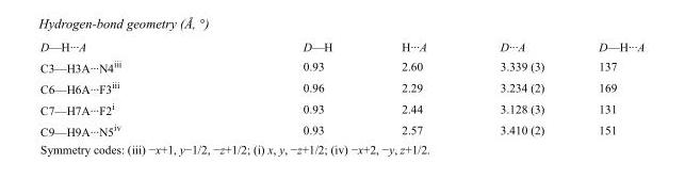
<table><tbody><tr><td>D—H···A</td><td>D—H</td><td>H···A</td><td>D···A</td><td>D—H···A</td></tr><tr><td>C3—H3A···N4<sup>iii</sup></td><td>0.93</td><td>2.60</td><td>3.339 (3)</td><td>137</td></tr><tr><td>C6—H6A···F3<sup>iii</sup></td><td>0.96</td><td>2.29</td><td>3.234 (2)</td><td>169</td></tr><tr><td>C7—H7A···F2<sup>i</sup></td><td>0.93</td><td>2.44</td><td>3.128 (3)</td><td>131</td></tr><tr><td>C9—H9A···N5<sup>iv</sup></td><td>0.93</td><td>2.57</td><td>3.410 (2)</td><td>151</td></tr></tbody></table>